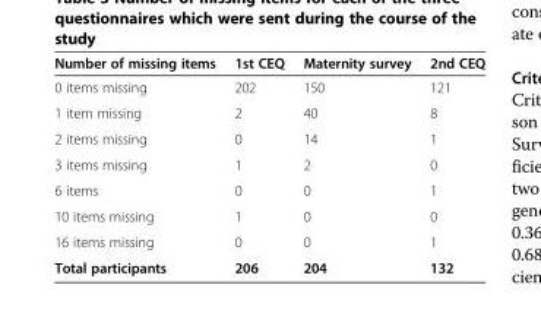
<table><thead><tr><td>Number of missing items</td><td>1st CEQ</td><td>Maternity survey</td><td>2nd CEQ</td></tr></thead><tbody><tr><td>0 items missing</td><td>202</td><td>150</td><td>121</td></tr><tr><td>1 item missing</td><td>2</td><td>40</td><td>8</td></tr><tr><td>2 items missing</td><td>0</td><td>14</td><td>1</td></tr><tr><td>3 items missing</td><td>1</td><td>2</td><td>0</td></tr><tr><td>6 items</td><td>0</td><td>0</td><td>1</td></tr><tr><td>10 items missing</td><td>1</td><td>0</td><td>0</td></tr><tr><td>16 items missing</td><td>0</td><td>0</td><td>1</td></tr><tr><td>Total participants</td><td>206</td><td>204</td><td>132</td></tr></tbody></table>